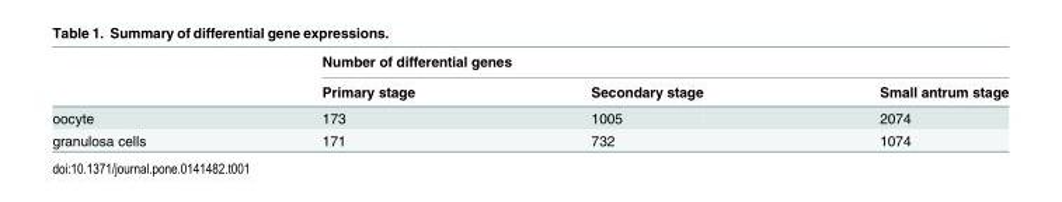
<table><thead><tr><td rowspan="2"></td><td colspan="3">Number of differential genes</td></tr><tr><td>Primary stage</td><td>Secondary stage</td><td>Small antrum stage</td></tr></thead><tbody><tr><td>oocyte</td><td>173</td><td>1005</td><td>2074</td></tr><tr><td>granulosa cells</td><td>171</td><td>732</td><td>1074</td></tr></tbody></table>